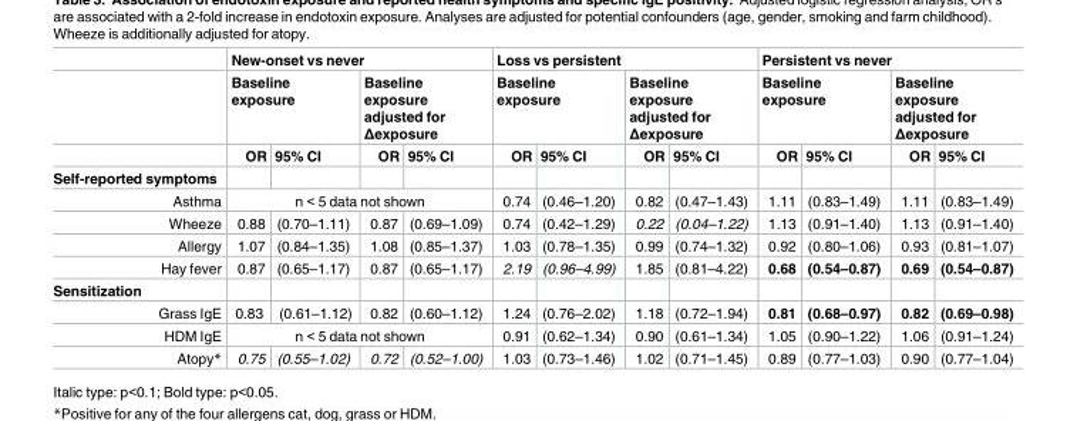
<table><thead><tr><td rowspan="3"></td><td colspan="4">New-onset vs never</td><td colspan="4">Loss vs persistent</td><td colspan="4">Persistent vs never</td></tr><tr><td colspan="2">Baseline exposure</td><td colspan="2">Baseline exposure adjusted for Δexposure</td><td colspan="2">Baseline exposure</td><td colspan="2">Baseline exposure adjusted for Δexposure</td><td colspan="2">Baseline exposure</td><td colspan="2">Baseline exposure adjusted for Δexposure</td></tr><tr><td>OR</td><td>95% CI</td><td>OR</td><td>95% CI</td><td>OR</td><td>95% CI</td><td>OR</td><td>95% CI</td><td>OR</td><td>95% CI</td><td>OR</td><td>95% CI</td></tr></thead><tbody><tr><td colspan="13">Self-reported symptoms</td></tr><tr><td>Asthma</td><td colspan="4">n &lt; 5 data not shown</td><td>0.74</td><td>(0.46–1.20)</td><td>0.82</td><td>(0.47–1.43)</td><td>1.11</td><td>(0.83–1.49)</td><td>1.11</td><td>(0.83–1.49)</td></tr><tr><td>Wheeze</td><td>0.88</td><td>(0.70–1.11)</td><td>0.87</td><td>(0.69–1.09)</td><td>0.74</td><td>(0.42–1.29)</td><td>0.22</td><td>(0.04–1.22)</td><td>1.13</td><td>(0.91–1.40)</td><td>1.13</td><td>(0.91–1.40)</td></tr><tr><td>Allergy</td><td>1.07</td><td>(0.84–1.35)</td><td>1.08</td><td>(0.85–1.37)</td><td>1.03</td><td>(0.78–1.35)</td><td>0.99</td><td>(0.74–1.32)</td><td>0.92</td><td>(0.80–1.06)</td><td>0.93</td><td>(0.81–1.07)</td></tr><tr><td>Hay fever</td><td>0.87</td><td>(0.65–1.17)</td><td>0.87</td><td>(0.65–1.17)</td><td>2.19</td><td>(0.96–4.99)</td><td>1.85</td><td>(0.81–4.22)</td><td>0.68</td><td>(0.54–0.87)</td><td>0.69</td><td>(0.54–0.87)</td></tr><tr><td colspan="13">Sensitization</td></tr><tr><td>Grass IgE</td><td>0.83</td><td>(0.61–1.12)</td><td>0.82</td><td>(0.60–1.12)</td><td>1.24</td><td>(0.76–2.02)</td><td>1.18</td><td>(0.72–1.94)</td><td>0.81</td><td>(0.68–0.97)</td><td>0.82</td><td>(0.69–0.98)</td></tr><tr><td>HDM IgE</td><td colspan="4">n &lt; 5 data not shown</td><td>0.91</td><td>(0.62–1.34)</td><td>0.90</td><td>(0.61–1.34)</td><td>1.05</td><td>(0.90–1.22)</td><td>1.06</td><td>(0.91–1.24)</td></tr><tr><td>Atopy*</td><td>0.75</td><td>(0.55–1.02)</td><td>0.72</td><td>(0.52–1.00)</td><td>1.03</td><td>(0.73–1.46)</td><td>1.02</td><td>(0.71–1.45)</td><td>0.89</td><td>(0.77–1.03)</td><td>0.90</td><td>(0.77–1.04)</td></tr></tbody></table>